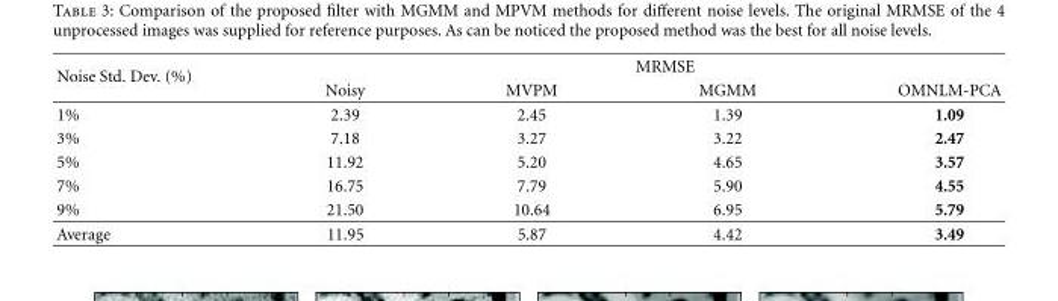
<table><thead><tr><td rowspan="2">Noise Std. Dev. (%)</td><td colspan="4">MRMSE</td></tr><tr><td>Noisy</td><td>MVPM</td><td>MGMM</td><td>OMNLM-PCA</td></tr></thead><tbody><tr><td>1%</td><td>2.39</td><td>2.45</td><td>1.39</td><td>1.09</td></tr><tr><td>3%</td><td>7.18</td><td>3.27</td><td>3.22</td><td>2.47</td></tr><tr><td>5%</td><td>11.92</td><td>5.20</td><td>4.65</td><td>3.57</td></tr><tr><td>7%</td><td>16.75</td><td>7.79</td><td>5.90</td><td>4.55</td></tr><tr><td>9%</td><td>21.50</td><td>10.64</td><td>6.95</td><td>5.79</td></tr><tr><td>Average</td><td>11.95</td><td>5.87</td><td>4.42</td><td>3.49</td></tr></tbody></table>